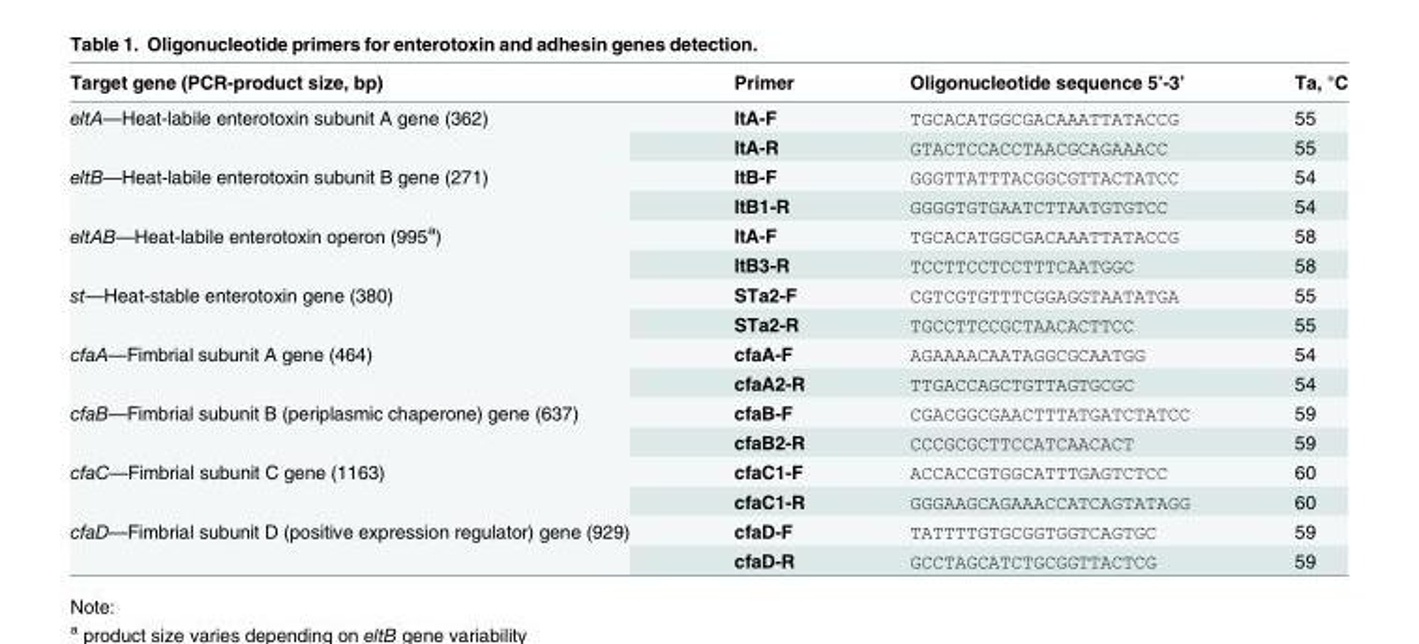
<table><thead><tr><td>Target gene (PCR-product size, bp)</td><td>Primer</td><td>Oligonucleotide sequence 5’-3’</td><td>Ta, °C</td></tr></thead><tbody><tr><td rowspan="2">eltA—Heat-labile enterotoxin subunit A gene (362)</td><td>ltA-F</td><td>TGCACATGGCGACAAATTATACCG</td><td>55</td></tr><tr><td>ltA-R</td><td>GTACTCCACCTAACGCAGAAACC</td><td>55</td></tr><tr><td rowspan="2">eltB—Heat-labile enterotoxin subunit B gene (271)</td><td>ltB-F</td><td>GGGTTATTTACGGCGTTACTATCC</td><td>54</td></tr><tr><td>ltB1-R</td><td>GGGGTGTGAATCTTAATGTGTCC</td><td>54</td></tr><tr><td rowspan="2">eltAB—Heat-labile enterotoxin operon (995<sup>a</sup>)</td><td>ltA-F</td><td>TGCACATGGCGACAAATTATACCG</td><td>58</td></tr><tr><td>ltB3-R</td><td>TCCTTCCTCCTTTCAATGGC</td><td>58</td></tr><tr><td rowspan="2">st—Heat-stable enterotoxin gene (380)</td><td>STa2-F</td><td>CGTCGTGTTTCGGAGGTAATATGA</td><td>55</td></tr><tr><td>STa2-R</td><td>TGCCTTCCGCTAACACTTCC</td><td>55</td></tr><tr><td rowspan="2">cfaA—Fimbrial subunit A gene (464)</td><td>cfaA-F</td><td>AGAAAACAATAGGCGCAATGG</td><td>54</td></tr><tr><td>cfaA2-R</td><td>TTGACCAGCTGTTAGTGCGC</td><td>54</td></tr><tr><td rowspan="2">cfaB—Fimbrial subunit B (periplasmic chaperone) gene (637)</td><td>cfaB-F</td><td>CGACGGCGAACTTTATGATCTATCC</td><td>59</td></tr><tr><td>cfaB2-R</td><td>CCCGCGCTTCCATCAACACT</td><td>59</td></tr><tr><td rowspan="2">cfaC—Fimbrial subunit C gene (1163)</td><td>cfaC1-F</td><td>ACCACCGTGGCATTTGAGTCTCC</td><td>60</td></tr><tr><td>cfaC1-R</td><td>GGGAAGCAGAAACCATCAGTATAGG</td><td>60</td></tr><tr><td rowspan="2">cfaD—Fimbrial subunit D (positive expression regulator) gene (929)</td><td>cfaD-F</td><td>TATTTTGTGCGGTGGTCAGTGC</td><td>59</td></tr><tr><td>cfaD-R</td><td>GCCTAGCATCTGCGGTTACTCG</td><td>59</td></tr></tbody></table>